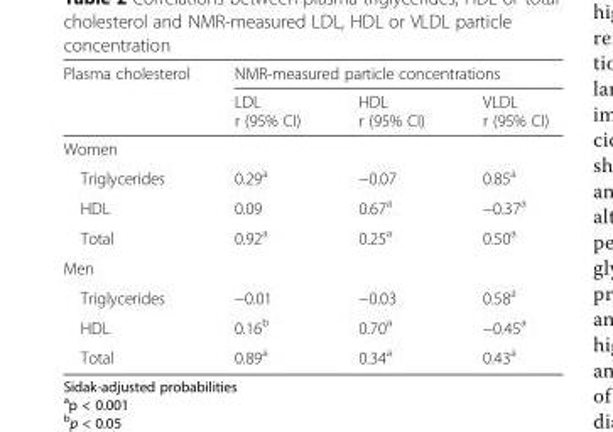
<table><thead><tr><td rowspan="2">Plasma cholesterol</td><td colspan="3">NMR-measured particle concentrations</td></tr><tr><td>LDL r (95% CI)</td><td>HDL r (95% CI)</td><td>VLDL r (95% CI)</td></tr></thead><tbody><tr><td colspan="4">Women</td></tr><tr><td>Triglycerides</td><td>0.29<sup>a</sup></td><td>−0.07</td><td>0.85<sup>a</sup></td></tr><tr><td>HDL</td><td>0.09</td><td>0.67<sup>a</sup></td><td>−0.37<sup>a</sup></td></tr><tr><td>Total</td><td>0.92<sup>a</sup></td><td>0.25<sup>a</sup></td><td>0.50<sup>a</sup></td></tr><tr><td colspan="4">Men</td></tr><tr><td>Triglycerides</td><td>−0.01</td><td>−0.03</td><td>0.58<sup>a</sup></td></tr><tr><td>HDL</td><td>0.16<sup>b</sup></td><td>0.70<sup>a</sup></td><td>−0.45<sup>a</sup></td></tr><tr><td>Total</td><td>0.89<sup>a</sup></td><td>0.34<sup>a</sup></td><td>0.43<sup>a</sup></td></tr></tbody></table>